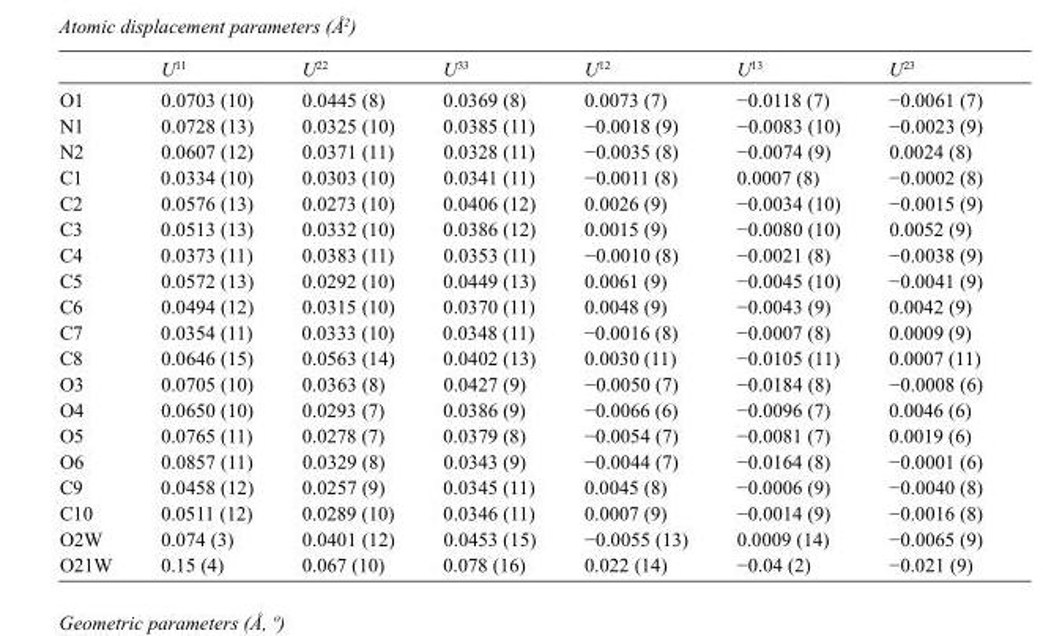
<table><thead><tr><td></td><td>U<sup>11</sup></td><td>U<sup>22</sup></td><td>U<sup>33</sup></td><td>U<sup>12</sup></td><td>U<sup>13</sup></td><td>U<sup>23</sup></td></tr></thead><tbody><tr><td>O1</td><td>0.0703 (10)</td><td>0.0445 (8)</td><td>0.0369 (8)</td><td>0.0073 (7)</td><td>−0.0118 (7)</td><td>−0.0061 (7)</td></tr><tr><td>N1</td><td>0.0728 (13)</td><td>0.0325 (10)</td><td>0.0385 (11)</td><td>−0.0018 (9)</td><td>−0.0083 (10)</td><td>−0.0023 (9)</td></tr><tr><td>N2</td><td>0.0607 (12)</td><td>0.0371 (11)</td><td>0.0328 (11)</td><td>−0.0035 (8)</td><td>−0.0074 (9)</td><td>0.0024 (8)</td></tr><tr><td>C1</td><td>0.0334 (10)</td><td>0.0303 (10)</td><td>0.0341 (11)</td><td>−0.0011 (8)</td><td>0.0007 (8)</td><td>−0.0002 (8)</td></tr><tr><td>C2</td><td>0.0576 (13)</td><td>0.0273 (10)</td><td>0.0406 (12)</td><td>0.0026 (9)</td><td>−0.0034 (10)</td><td>−0.0015 (9)</td></tr><tr><td>C3</td><td>0.0513 (13)</td><td>0.0332 (10)</td><td>0.0386 (12)</td><td>0.0015 (9)</td><td>−0.0080 (10)</td><td>0.0052 (9)</td></tr><tr><td>C4</td><td>0.0373 (11)</td><td>0.0383 (11)</td><td>0.0353 (11)</td><td>−0.0010 (8)</td><td>−0.0021 (8)</td><td>−0.0038 (9)</td></tr><tr><td>C5</td><td>0.0572 (13)</td><td>0.0292 (10)</td><td>0.0449 (13)</td><td>0.0061 (9)</td><td>−0.0045 (10)</td><td>−0.0041 (9)</td></tr><tr><td>C6</td><td>0.0494 (12)</td><td>0.0315 (10)</td><td>0.0370 (11)</td><td>0.0048 (9)</td><td>−0.0043 (9)</td><td>0.0042 (9)</td></tr><tr><td>C7</td><td>0.0354 (11)</td><td>0.0333 (10)</td><td>0.0348 (11)</td><td>−0.0016 (8)</td><td>−0.0007 (8)</td><td>0.0009 (9)</td></tr><tr><td>C8</td><td>0.0646 (15)</td><td>0.0563 (14)</td><td>0.0402 (13)</td><td>0.0030 (11)</td><td>−0.0105 (11)</td><td>0.0007 (11)</td></tr><tr><td>O3</td><td>0.0705 (10)</td><td>0.0363 (8)</td><td>0.0427 (9)</td><td>−0.0050 (7)</td><td>−0.0184 (8)</td><td>−0.0008 (6)</td></tr><tr><td>O4</td><td>0.0650 (10)</td><td>0.0293 (7)</td><td>0.0386 (9)</td><td>−0.0066 (6)</td><td>−0.0096 (7)</td><td>0.0046 (6)</td></tr><tr><td>O5</td><td>0.0765 (11)</td><td>0.0278 (7)</td><td>0.0379 (8)</td><td>−0.0054 (7)</td><td>−0.0081 (7)</td><td>0.0019 (6)</td></tr><tr><td>O6</td><td>0.0857 (11)</td><td>0.0329 (8)</td><td>0.0343 (9)</td><td>−0.0044 (7)</td><td>−0.0164 (8)</td><td>−0.0001 (6)</td></tr><tr><td>C9</td><td>0.0458 (12)</td><td>0.0257 (9)</td><td>0.0345 (11)</td><td>0.0045 (8)</td><td>−0.0006 (9)</td><td>−0.0040 (8)</td></tr><tr><td>C10</td><td>0.0511 (12)</td><td>0.0289 (10)</td><td>0.0346 (11)</td><td>0.0007 (9)</td><td>−0.0014 (9)</td><td>−0.0016 (8)</td></tr><tr><td>O2W</td><td>0.074 (3)</td><td>0.0401 (12)</td><td>0.0453 (15)</td><td>−0.0055 (13)</td><td>0.0009 (14)</td><td>−0.0065 (9)</td></tr><tr><td>O21W</td><td>0.15 (4)</td><td>0.067 (10)</td><td>0.078 (16)</td><td>0.022 (14)</td><td>−0.04 (2)</td><td>−0.021 (9)</td></tr></tbody></table>